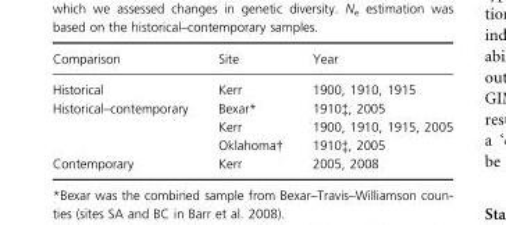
<table><thead><tr><td>Comparison</td><td>Site</td><td>Year</td></tr></thead><tbody><tr><td>Historical</td><td>Kerr</td><td>1900, 1910, 1915</td></tr><tr><td rowspan="3">Historical–contemporary</td><td>Bexar*</td><td>1910‡, 2005</td></tr><tr><td>Kerr</td><td>1900, 1910, 1915, 2005</td></tr><tr><td>Oklahoma†</td><td>1910‡, 2005</td></tr><tr><td>Contemporary</td><td>Kerr</td><td>2005, 2008</td></tr></tbody></table>